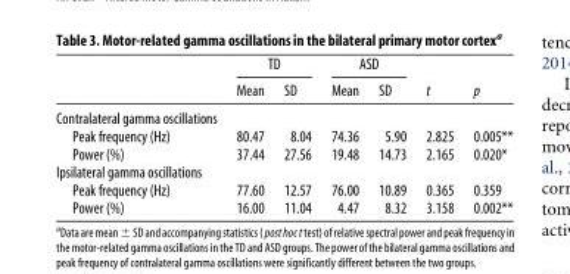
<table><thead><tr><td rowspan="2"></td><td colspan="2">TD</td><td colspan="2">ASD</td><td rowspan="2">t</td><td rowspan="2">p</td></tr><tr><td>Mean</td><td>SD</td><td>Mean</td><td>SD</td></tr></thead><tbody><tr><td colspan="7">Contralateral gamma oscillations</td></tr><tr><td>Peak frequency (Hz)</td><td>80.47</td><td>8.04</td><td>74.36</td><td>5.90</td><td>2.825</td><td>0.005**</td></tr><tr><td>Power (%)</td><td>37.44</td><td>27.56</td><td>19.48</td><td>14.73</td><td>2.165</td><td>0.020*</td></tr><tr><td colspan="7">Ipsilateral gamma oscillations</td></tr><tr><td>Peak frequency (Hz)</td><td>77.60</td><td>12.57</td><td>76.00</td><td>10.89</td><td>0.365</td><td>0.359</td></tr><tr><td>Power (%)</td><td>16.00</td><td>11.04</td><td>4.47</td><td>8.32</td><td>3.158</td><td>0.002**</td></tr></tbody></table>